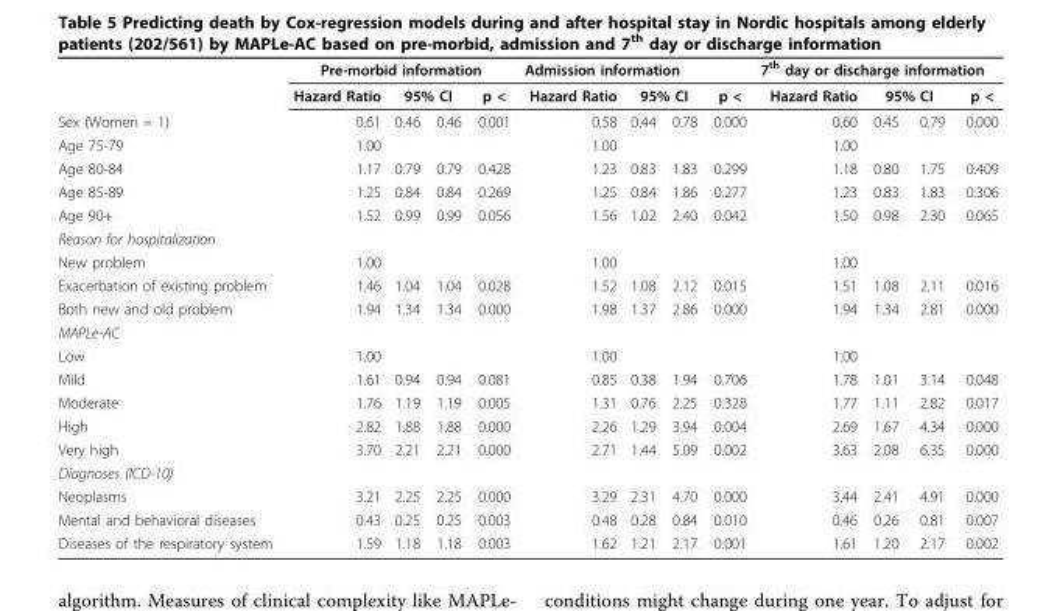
<table><thead><tr><td rowspan="3">Sex (Women = 1)</td><td colspan="4">Pre-morbid information</td><td colspan="4">Admission information</td><td colspan="4">7<sup>th</sup> day or discharge information</td></tr><tr><td rowspan="2">Hazard Ratio 0.61</td><td colspan="2">95% CI</td><td rowspan="2">p &lt; 0.001</td><td rowspan="2">Hazard Ratio 0.58</td><td colspan="2">95% CI</td><td rowspan="2">p &lt; 0.000</td><td rowspan="2">Hazard Ratio 0.60</td><td colspan="2">95% CI</td><td rowspan="2">p &lt; 0.000</td></tr><tr><td>0.46</td><td>0.46</td><td>0.44</td><td>0.78</td><td>0.45</td><td>0.79</td></tr></thead><tbody><tr><td>Age 75-79</td><td>1.00</td><td></td><td></td><td></td><td>1.00</td><td></td><td></td><td></td><td>1.00</td><td></td><td></td><td></td></tr><tr><td>Age 80-84</td><td>1.17</td><td>0.79</td><td>0.79</td><td>0.428</td><td>1.23</td><td>0.83</td><td>1.83</td><td>0.299</td><td>1.18</td><td>0.80</td><td>1.75</td><td>0.409</td></tr><tr><td>Age 85-89</td><td>1.25</td><td>0.84</td><td>0.84</td><td>0.269</td><td>1.25</td><td>0.84</td><td>1.86</td><td>0.277</td><td>1.23</td><td>0.83</td><td>1.83</td><td>0.306</td></tr><tr><td>Age 90+</td><td>1.52</td><td>0.99</td><td>0.99</td><td>0.056</td><td>1.56</td><td>1.02</td><td>2.40</td><td>0.042</td><td>1.50</td><td>0.98</td><td>2.30</td><td>0.065</td></tr><tr><td colspan="13">Reason for hospitalization</td></tr><tr><td>New problem</td><td>1.00</td><td></td><td></td><td></td><td>1.00</td><td></td><td></td><td></td><td>1.00</td><td></td><td></td><td></td></tr><tr><td>Exacerbation of existing problem</td><td>1.46</td><td>1.04</td><td>1.04</td><td>0.028</td><td>1.52</td><td>1.08</td><td>2.12</td><td>0.015</td><td>1.51</td><td>1.08</td><td>2.11</td><td>0.016</td></tr><tr><td>Both new and old problem</td><td>1.94</td><td>1.34</td><td>1.34</td><td>0.000</td><td>1.98</td><td>1.37</td><td>2.86</td><td>0.000</td><td>1.94</td><td>1.34</td><td>2.81</td><td>0.000</td></tr><tr><td colspan="13">MAPLe-AC</td></tr><tr><td>Low</td><td>1.00</td><td></td><td></td><td></td><td>1.00</td><td></td><td></td><td></td><td>1.00</td><td></td><td></td><td></td></tr><tr><td>Mild</td><td>1.61</td><td>0.94</td><td>0.94</td><td>0.081</td><td>0.85</td><td>0.38</td><td>1.94</td><td>0.706</td><td>1.78</td><td>1.01</td><td>3.14</td><td>0.048</td></tr><tr><td>Moderate</td><td>1.76</td><td>1.19</td><td>1.19</td><td>0.005</td><td>1.31</td><td>0.76</td><td>2.25</td><td>0.328</td><td>1.77</td><td>1.11</td><td>2.82</td><td>0.017</td></tr><tr><td>High</td><td>2.82</td><td>1.88</td><td>1.88</td><td>0.000</td><td>2.26</td><td>1.29</td><td>3.94</td><td>0.004</td><td>2.69</td><td>1.67</td><td>4.34</td><td>0.000</td></tr><tr><td>Very high</td><td>3.70</td><td>2.21</td><td>2.21</td><td>0.000</td><td>2.71</td><td>1.44</td><td>5.09</td><td>0.002</td><td>3.63</td><td>2.08</td><td>6.35</td><td>0.000</td></tr><tr><td colspan="13">Diagnoses (ICD-10)</td></tr><tr><td>Neoplasms</td><td>3.21</td><td>2.25</td><td>2.25</td><td>0.000</td><td>3.29</td><td>2.31</td><td>4.70</td><td>0.000</td><td>3.44</td><td>2.41</td><td>4.91</td><td>0.000</td></tr><tr><td>Mental and behavioral diseases</td><td>0.43</td><td>0.25</td><td>0.25</td><td>0.003</td><td>0.48</td><td>0.28</td><td>0.84</td><td>0.010</td><td>0.46</td><td>0.26</td><td>0.81</td><td>0.007</td></tr><tr><td>Diseases of the respiratory system</td><td>1.59</td><td>1.18</td><td>1.18</td><td>0.003</td><td>1.62</td><td>1.21</td><td>2.17</td><td>0.001</td><td>1.61</td><td>1.20</td><td>2.17</td><td>0.002</td></tr></tbody></table>